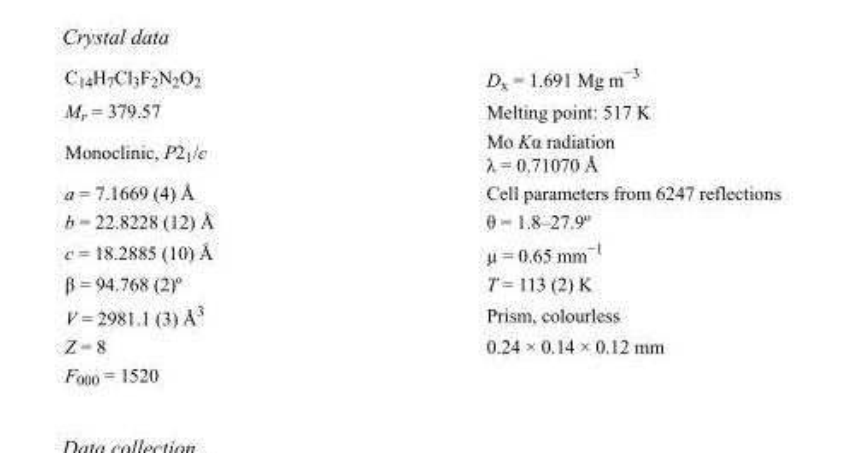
<table><tbody><tr><td>C<sub>14</sub>H<sub>7</sub>Cl<sub>3</sub>F<sub>2</sub>N<sub>2</sub>O<sub>2</sub></td><td>D<sub>x</sub> = 1.691 Mg m<sup>−3</sup></td></tr><tr><td>M<sub>r</sub> = 379.57</td><td>Melting point: 517 K</td></tr><tr><td>Monoclinic, P2<sub>1</sub>/c</td><td>Mo Kα radiation λ = 0.71070 Å</td></tr><tr><td>a = 7.1669 (4) Å</td><td>Cell parameters from 6247 reflections</td></tr><tr><td>b = 22.8228 (12) Å</td><td>θ = 1.8–27.9º</td></tr><tr><td>c = 18.2885 (10) Å</td><td>µ = 0.65 mm<sup>−1</sup></td></tr><tr><td>β = 94.768 (2)º</td><td>T = 113 (2) K</td></tr><tr><td>V = 2981.1 (3) Å<sup>3</sup></td><td>Prism, colourless</td></tr><tr><td>Z = 8</td><td>0.24 × 0.14 × 0.12 mm</td></tr><tr><td>F000 = 1520</td><td></td></tr></tbody></table>